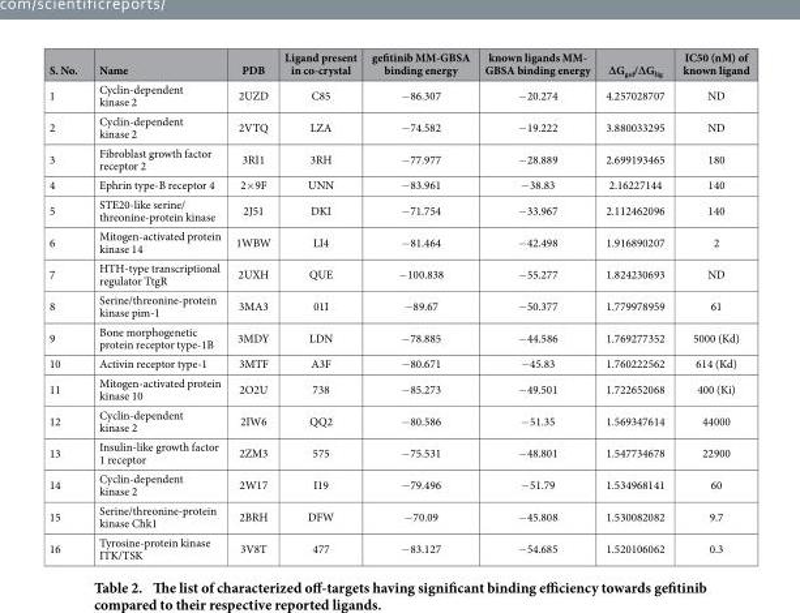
<table><thead><tr><td>S. No.</td><td>Name</td><td>PDB</td><td>Ligand present in co-crystal</td><td>gefitinib MM-GBSA binding energy</td><td>known ligands MM- GBSA binding energy</td><td>∆G<sub>gef</sub>/∆G<sub>lig</sub></td><td>IC50 (nM) of known ligand</td></tr></thead><tbody><tr><td>1</td><td>Cyclin-dependent kinase 2</td><td>2UZD</td><td>C85</td><td>− 86.307</td><td>− 20.274</td><td>4.257028707</td><td>ND</td></tr><tr><td>2</td><td>Cyclin-dependent kinase 2</td><td>2VTQ</td><td>LZA</td><td>− 74.582</td><td>− 19.222</td><td>3.880033295</td><td>ND</td></tr><tr><td>3</td><td>Fibroblast growth factor receptor 2</td><td>3RI1</td><td>3RH</td><td>− 77.977</td><td>− 28.889</td><td>2.699193465</td><td>180</td></tr><tr><td>4</td><td>Ephrin type-B receptor 4</td><td>2× 9F</td><td>UNN</td><td>− 83.961</td><td>− 38.83</td><td>2.16227144</td><td>140</td></tr><tr><td>5</td><td>STE20-like serine/ threonine-protein kinase</td><td>2J51</td><td>DKI</td><td>− 71.754</td><td>− 33.967</td><td>2.112462096</td><td>140</td></tr><tr><td>6</td><td>Mitogen-activated protein kinase 14</td><td>1WBW</td><td>LI4</td><td>− 81.464</td><td>− 42.498</td><td>1.916890207</td><td>2</td></tr><tr><td>7</td><td>HTH-type transcriptional regulator TtgR</td><td>2UXH</td><td>QUE</td><td>− 100.838</td><td>− 55.277</td><td>1.824230693</td><td>ND</td></tr><tr><td>8</td><td>Serine/threonine-protein kinase pim-1</td><td>3MA3</td><td>01I</td><td>− 89.67</td><td>− 50.377</td><td>1.779978959</td><td>61</td></tr><tr><td>9</td><td>Bone morphogenetic protein receptor type-1B</td><td>3MDY</td><td>LDN</td><td>− 78.885</td><td>− 44.586</td><td>1.769277352</td><td>5000 (Kd)</td></tr><tr><td>10</td><td>Activin receptor type-1</td><td>3MTF</td><td>A3F</td><td>− 80.671</td><td>− 45.83</td><td>1.760222562</td><td>614 (Kd)</td></tr><tr><td>11</td><td>Mitogen-activated protein kinase 10</td><td>2O2U</td><td>738</td><td>− 85.273</td><td>− 49.501</td><td>1.722652068</td><td>400 (Ki)</td></tr><tr><td>12</td><td>Cyclin-dependent kinase 2</td><td>2IW6</td><td>QQ2</td><td>− 80.586</td><td>− 51.35</td><td>1.569347614</td><td>44000</td></tr><tr><td>13</td><td>Insulin-like growth factor 1 receptor</td><td>2ZM3</td><td>575</td><td>− 75.531</td><td>− 48.801</td><td>1.547734678</td><td>22900</td></tr><tr><td>14</td><td>Cyclin-dependent kinase 2</td><td>2W17</td><td>I19</td><td>− 79.496</td><td>− 51.79</td><td>1.534968141</td><td>60</td></tr><tr><td>15</td><td>Serine/threonine-protein kinase Chk1</td><td>2BRH</td><td>DFW</td><td>− 70.09</td><td>− 45.808</td><td>1.530082082</td><td>9.7</td></tr><tr><td>16</td><td>Tyrosine-protein kinase ITK/TSK</td><td>3V8T</td><td>477</td><td>− 83.127</td><td>− 54.685</td><td>1.520106062</td><td>0.3</td></tr></tbody></table>